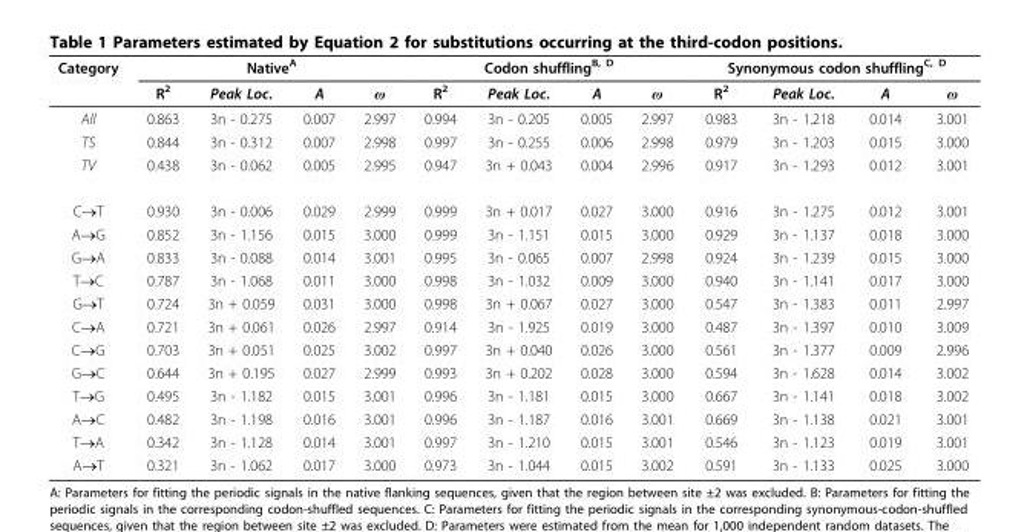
<table><thead><tr><td rowspan="2">Category</td><td colspan="4">Native<sup>A</sup></td><td colspan="4">Codon shuffling<sup>B, D</sup></td><td colspan="4">Synonymous codon shuffling<sup>C, D</sup></td></tr><tr><td>R<sup>2</sup></td><td>Peak Loc.</td><td>A</td><td>ω</td><td>R<sup>2</sup></td><td>Peak Loc.</td><td>A</td><td>ω</td><td>R<sup>2</sup></td><td>Peak Loc.</td><td>A</td><td>ω</td></tr></thead><tbody><tr><td>All</td><td>0.863</td><td>3n - 0.275</td><td>0.007</td><td>2.997</td><td>0.994</td><td>3n - 0.205</td><td>0.005</td><td>2.997</td><td>0.983</td><td>3n - 1.218</td><td>0.014</td><td>3.001</td></tr><tr><td>TS</td><td>0.844</td><td>3n - 0.312</td><td>0.007</td><td>2.998</td><td>0.997</td><td>3n - 0.255</td><td>0.006</td><td>2.998</td><td>0.979</td><td>3n - 1.203</td><td>0.015</td><td>3.000</td></tr><tr><td>TV</td><td>0.438</td><td>3n - 0.062</td><td>0.005</td><td>2.995</td><td>0.947</td><td>3n + 0.043</td><td>0.004</td><td>2.996</td><td>0.917</td><td>3n - 1.293</td><td>0.012</td><td>3.001</td></tr><tr><td>C→T</td><td>0.930</td><td>3n - 0.006</td><td>0.029</td><td>2.999</td><td>0.999</td><td>3n + 0.017</td><td>0.027</td><td>3.000</td><td>0.916</td><td>3n - 1.275</td><td>0.012</td><td>3.001</td></tr><tr><td>A→G</td><td>0.852</td><td>3n - 1.156</td><td>0.015</td><td>3.000</td><td>0.999</td><td>3n - 1.151</td><td>0.015</td><td>3.000</td><td>0.929</td><td>3n - 1.137</td><td>0.018</td><td>3.000</td></tr><tr><td>G→A</td><td>0.833</td><td>3n - 0.088</td><td>0.014</td><td>3.001</td><td>0.995</td><td>3n - 0.065</td><td>0.007</td><td>2.998</td><td>0.924</td><td>3n - 1.239</td><td>0.015</td><td>3.000</td></tr><tr><td>T→C</td><td>0.787</td><td>3n - 1.068</td><td>0.011</td><td>3.000</td><td>0.998</td><td>3n - 1.032</td><td>0.009</td><td>3.000</td><td>0.940</td><td>3n - 1.141</td><td>0.017</td><td>3.000</td></tr><tr><td>G→T</td><td>0.724</td><td>3n + 0.059</td><td>0.031</td><td>3.000</td><td>0.998</td><td>3n + 0.067</td><td>0.027</td><td>3.000</td><td>0.547</td><td>3n - 1.383</td><td>0.011</td><td>2.997</td></tr><tr><td>C→A</td><td>0.721</td><td>3n + 0.061</td><td>0.026</td><td>2.997</td><td>0.914</td><td>3n - 1.925</td><td>0.019</td><td>3.000</td><td>0.487</td><td>3n - 1.397</td><td>0.010</td><td>3.009</td></tr><tr><td>C→G</td><td>0.703</td><td>3n + 0.051</td><td>0.025</td><td>3.002</td><td>0.997</td><td>3n + 0.040</td><td>0.026</td><td>3.000</td><td>0.561</td><td>3n - 1.377</td><td>0.009</td><td>2.996</td></tr><tr><td>G→C</td><td>0.644</td><td>3n + 0.195</td><td>0.027</td><td>2.999</td><td>0.993</td><td>3n + 0.202</td><td>0.028</td><td>3.000</td><td>0.594</td><td>3n - 1.628</td><td>0.014</td><td>3.002</td></tr><tr><td>T→G</td><td>0.495</td><td>3n - 1.182</td><td>0.015</td><td>3.001</td><td>0.996</td><td>3n - 1.181</td><td>0.015</td><td>3.000</td><td>0.667</td><td>3n - 1.141</td><td>0.018</td><td>3.002</td></tr><tr><td>A→C</td><td>0.482</td><td>3n - 1.198</td><td>0.016</td><td>3.001</td><td>0.996</td><td>3n - 1.187</td><td>0.016</td><td>3.001</td><td>0.669</td><td>3n - 1.138</td><td>0.021</td><td>3.001</td></tr><tr><td>T→A</td><td>0.342</td><td>3n - 1.128</td><td>0.014</td><td>3.001</td><td>0.997</td><td>3n - 1.210</td><td>0.015</td><td>3.001</td><td>0.546</td><td>3n - 1.123</td><td>0.019</td><td>3.001</td></tr><tr><td>A→T</td><td>0.321</td><td>3n - 1.062</td><td>0.017</td><td>3.000</td><td>0.973</td><td>3n - 1.044</td><td>0.015</td><td>3.002</td><td>0.591</td><td>3n - 1.133</td><td>0.025</td><td>3.000</td></tr></tbody></table>